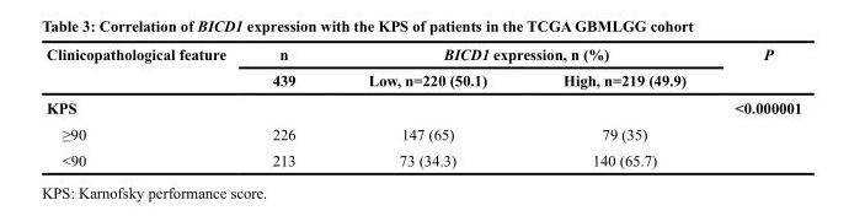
<table><thead><tr><td rowspan="2">Clinicopathological feature</td><td rowspan="2">n 439</td><td colspan="2">BICD1 expression, n (%)</td><td rowspan="2">P</td></tr><tr><td>Low, n=220 (50.1)</td><td>High, n=219 (49.9)</td></tr></thead><tbody><tr><td>KPS</td><td></td><td></td><td></td><td>&lt;0.000001</td></tr><tr><td>≥90</td><td>226</td><td>147 (65)</td><td>79 (35)</td><td></td></tr><tr><td>&lt;90</td><td>213</td><td>73 (34.3)</td><td>140 (65.7)</td><td></td></tr></tbody></table>